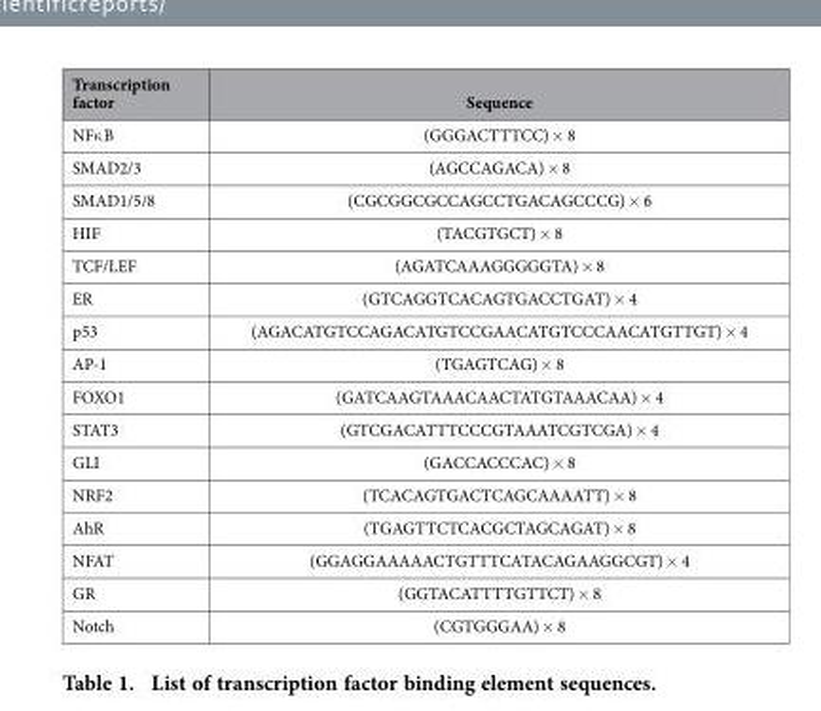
<table><thead><tr><td>Transcription factor</td><td>Sequence</td></tr></thead><tbody><tr><td>NFκ B</td><td>(GGGACTTTCC) × 8</td></tr><tr><td>SMAD2/3</td><td>(AGCCAGACA) × 8</td></tr><tr><td>SMAD1/5/8</td><td>(CGCGGCGCCAGCCTGACAGCCCG) × 6</td></tr><tr><td>HIF</td><td>(TACGTGCT) × 8</td></tr><tr><td>TCF/LEF</td><td>(AGATCAAAGGGGGTA) × 8</td></tr><tr><td>ER</td><td>(GTCAGGTCACAGTGACCTGAT) × 4</td></tr><tr><td>p53</td><td>(AGACATGTCCAGACATGTCCGAACATGTCCCAACATGTTGT) × 4</td></tr><tr><td>AP-1</td><td>(TGAGTCAG) × 8</td></tr><tr><td>FOXO1</td><td>(GATCAAGTAAACAACTATGTAAACAA) × 4</td></tr><tr><td>STAT3</td><td>(GTCGACATTTCCCGTAAATCGTCGA) × 4</td></tr><tr><td>GLI</td><td>(GACCACCCAC) × 8</td></tr><tr><td>NRF2</td><td>(TCACAGTGACTCAGCAAAATT) × 8</td></tr><tr><td>AhR</td><td>(TGAGTTCTCACGCTAGCAGAT) × 8</td></tr><tr><td>NFAT</td><td>(GGAGGAAAAACTGTTTCATACAGAAGGCGT) × 4</td></tr><tr><td>GR</td><td>(GGTACATTTTGTTCT) × 8</td></tr><tr><td>Notch</td><td>(CGTGGGAA) × 8</td></tr></tbody></table>